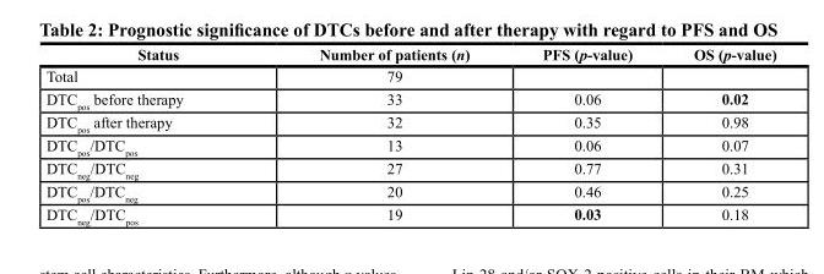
<table><thead><tr><td>Status</td><td>Number of patients (n)</td><td>PFS (p‑value)</td><td>OS (p‑value)</td></tr></thead><tbody><tr><td>Total</td><td>79</td><td></td><td></td></tr><tr><td>DTC<sub>pos</sub> before therapy</td><td>33</td><td>0.06</td><td>0.02</td></tr><tr><td>DTC<sub>pos</sub> after therapy</td><td>32</td><td>0.35</td><td>0.98</td></tr><tr><td>DTC<sub>pos</sub>/DTC<sub>pos</sub></td><td>13</td><td>0.06</td><td>0.07</td></tr><tr><td>DTC<sub>neg</sub>/DTC<sub>neg</sub></td><td>27</td><td>0.77</td><td>0.31</td></tr><tr><td>DTC<sub>pos</sub>/DTC<sub>neg</sub></td><td>20</td><td>0.46</td><td>0.25</td></tr><tr><td>DTC<sub>neg</sub>/DTC<sub>pos</sub></td><td>19</td><td>0.03</td><td>0.18</td></tr></tbody></table>